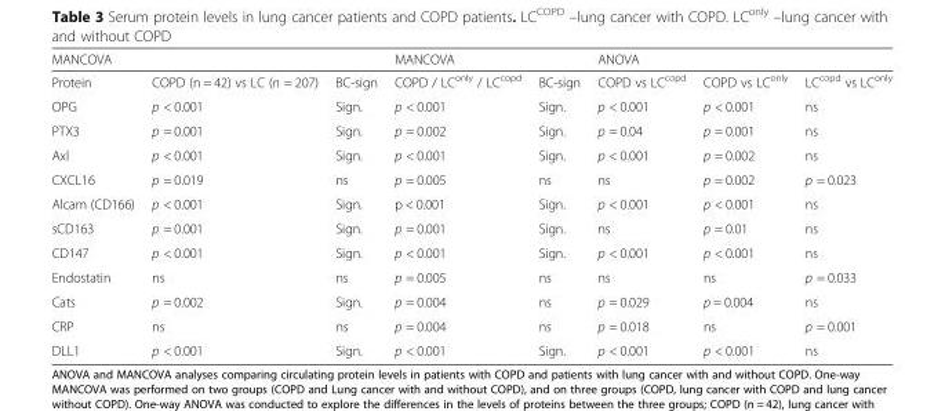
<table><thead><tr><td colspan="3">MANCOVA</td><td colspan="2">MANCOVA</td><td colspan="3">ANOVA</td></tr><tr><td>Protein</td><td>COPD (n = 42) vs LC (n = 207)</td><td>BC-sign</td><td>COPD / LC<sup>only</sup> / LC<sup>copd</sup></td><td>BC-sign</td><td>COPD vs LC<sup>copd</sup></td><td>COPD vs LC<sup>only</sup></td><td>LC<sup>copd</sup> vs LC<sup>only</sup></td></tr></thead><tbody><tr><td>OPG</td><td>p &lt; 0.001</td><td>Sign.</td><td>p &lt; 0.001</td><td>Sign.</td><td>p &lt; 0.001</td><td>p &lt; 0.001</td><td>ns</td></tr><tr><td>PTX3</td><td>p = 0.001</td><td>Sign.</td><td>p = 0.002</td><td>Sign.</td><td>p = 0.04</td><td>p = 0.001</td><td>ns</td></tr><tr><td>Axl</td><td>p &lt; 0.001</td><td>Sign.</td><td>p &lt; 0.001</td><td>Sign.</td><td>p &lt; 0.001</td><td>p = 0.002</td><td>ns</td></tr><tr><td>CXCL16</td><td>p = 0.019</td><td>ns</td><td>p = 0.005</td><td>ns</td><td>ns</td><td>p = 0.002</td><td>p = 0.023</td></tr><tr><td>Alcam (CD166)</td><td>p &lt; 0.001</td><td>Sign.</td><td>p &lt; 0.001</td><td>Sign.</td><td>p &lt; 0.001</td><td>p &lt; 0.001</td><td>ns</td></tr><tr><td>sCD163</td><td>p = 0.001</td><td>Sign.</td><td>p = 0.001</td><td>Sign.</td><td>ns</td><td>p = 0.01</td><td>ns</td></tr><tr><td>CD147</td><td>p &lt; 0.001</td><td>Sign.</td><td>p &lt; 0.001</td><td>Sign.</td><td>p &lt; 0.001</td><td>p &lt; 0.001</td><td>ns</td></tr><tr><td>Endostatin</td><td>ns</td><td>ns</td><td>p = 0.005</td><td>ns</td><td>ns</td><td>ns</td><td>p = 0.033</td></tr><tr><td>Cats</td><td>p = 0.002</td><td>Sign.</td><td>p = 0.004</td><td>ns</td><td>p = 0.029</td><td>p = 0.004</td><td>ns</td></tr><tr><td>CRP</td><td>ns</td><td>ns</td><td>p = 0.004</td><td>ns</td><td>p = 0.018</td><td>ns</td><td>p = 0.001</td></tr><tr><td>DLL1</td><td>p &lt; 0.001</td><td>Sign.</td><td>p &lt; 0.001</td><td>Sign.</td><td>p &lt; 0.001</td><td>p &lt; 0.001</td><td>ns</td></tr></tbody></table>